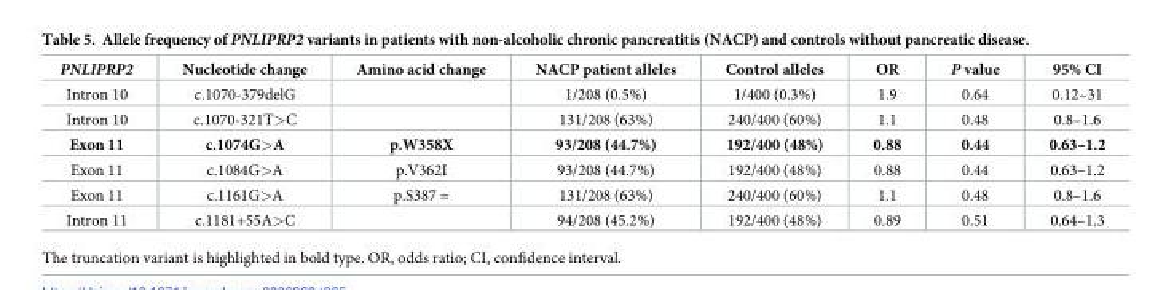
<table><thead><tr><td>PNLIPRP2</td><td>Nucleotide change</td><td>Amino acid change</td><td>NACP patient alleles</td><td>Control alleles</td><td>OR</td><td>P value</td><td>95% CI</td></tr></thead><tbody><tr><td>Intron 10</td><td>c.1070-379delG</td><td></td><td>1/208 (0.5%)</td><td>1/400 (0.3%)</td><td>1.9</td><td>0.64</td><td>0.12–31</td></tr><tr><td>Intron 10</td><td>c.1070-321T&gt;C</td><td></td><td>131/208 (63%)</td><td>240/400 (60%)</td><td>1.1</td><td>0.48</td><td>0.8–1.6</td></tr><tr><td>Exon 11</td><td>c.1074G&gt;A</td><td>p.W358X</td><td>93/208 (44.7%)</td><td>192/400 (48%)</td><td>0.88</td><td>0.44</td><td>0.63–1.2</td></tr><tr><td>Exon 11</td><td>c.1084G&gt;A</td><td>p.V362I</td><td>93/208 (44.7%)</td><td>192/400 (48%)</td><td>0.88</td><td>0.44</td><td>0.63–1.2</td></tr><tr><td>Exon 11</td><td>c.1161G&gt;A</td><td>p.S387 =</td><td>131/208 (63%)</td><td>240/400 (60%)</td><td>1.1</td><td>0.48</td><td>0.8–1.6</td></tr><tr><td>Intron 11</td><td>c.1181+55A&gt;C</td><td></td><td>94/208 (45.2%)</td><td>192/400 (48%)</td><td>0.89</td><td>0.51</td><td>0.64–1.3</td></tr></tbody></table>